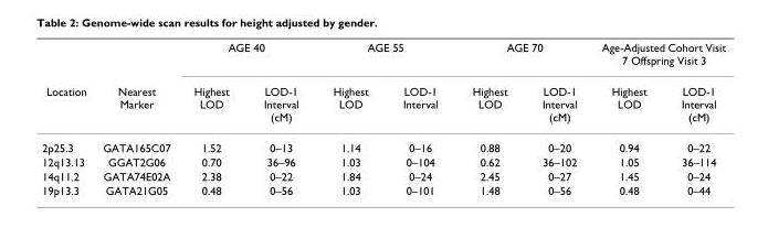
<table><thead><tr><td rowspan="2">Location</td><td rowspan="2">Nearest Marker</td><td colspan="2">AGE 40</td><td colspan="2">AGE 55</td><td colspan="2">AGE 70</td><td colspan="2">Age-Adjusted Cohort Visit 7 Offspring Visit 3</td></tr><tr><td>Highest LOD</td><td>LOD-1 Interval (cM)</td><td>Highest LOD</td><td>LOD-1 Interval</td><td>Highest LOD</td><td>LOD-1 Interval (cM)</td><td>Highest LOD</td><td>LOD-1 Interval (cM)</td></tr></thead><tbody><tr><td>2p25.3</td><td>GATA165C07</td><td>1.52</td><td>0–13</td><td>1.14</td><td>0–16</td><td>0.88</td><td>0–20</td><td>0.94</td><td>0–22</td></tr><tr><td>12q13.13</td><td>GGAT2G06</td><td>0.70</td><td>36–96</td><td>1.03</td><td>0–104</td><td>0.62</td><td>36–102</td><td>1.05</td><td>36–114</td></tr><tr><td>14q11.2</td><td>GATA74E02A</td><td>2.38</td><td>0–22</td><td>1.84</td><td>0–24</td><td>2.45</td><td>0–27</td><td>1.45</td><td>0–24</td></tr><tr><td>19p13.3</td><td>GATA21G05</td><td>0.48</td><td>0–56</td><td>1.03</td><td>0–101</td><td>1.48</td><td>0–56</td><td>0.48</td><td>0–44</td></tr></tbody></table>